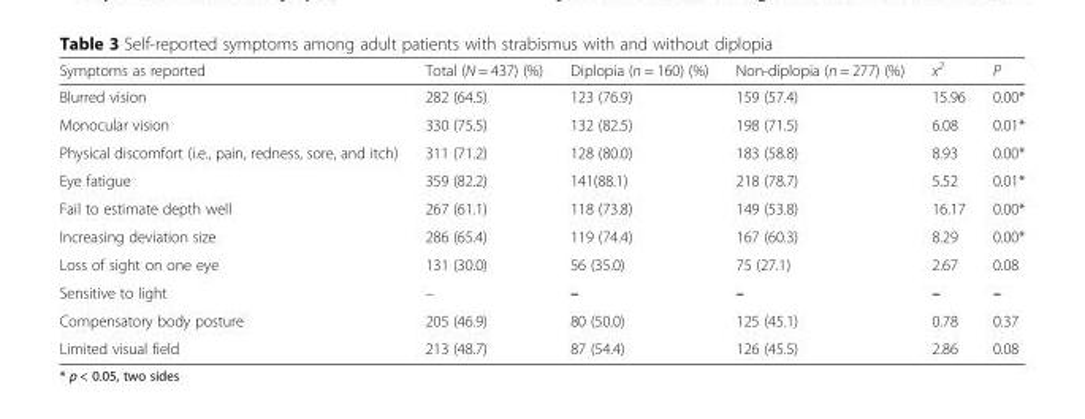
<table><thead><tr><td>Symptoms as reported</td><td>Total (N = 437) (%)</td><td>Diplopia (n = 160) (%)</td><td>Non-diplopia (n = 277) (%)</td><td>x<sup>2</sup></td><td>P</td></tr></thead><tbody><tr><td>Blurred vision</td><td>282 (64.5)</td><td>123 (76.9)</td><td>159 (57.4)</td><td>15.96</td><td>0.00*</td></tr><tr><td>Monocular vision</td><td>330 (75.5)</td><td>132 (82.5)</td><td>198 (71.5)</td><td>6.08</td><td>0.01*</td></tr><tr><td>Physical discomfort (i.e., pain, redness, sore, and itch)</td><td>311 (71.2)</td><td>128 (80.0)</td><td>183 (58.8)</td><td>8.93</td><td>0.00*</td></tr><tr><td>Eye fatigue</td><td>359 (82.2)</td><td>141(88.1)</td><td>218 (78.7)</td><td>5.52</td><td>0.01*</td></tr><tr><td>Fail to estimate depth well</td><td>267 (61.1)</td><td>118 (73.8)</td><td>149 (53.8)</td><td>16.17</td><td>0.00*</td></tr><tr><td>Increasing deviation size</td><td>286 (65.4)</td><td>119 (74.4)</td><td>167 (60.3)</td><td>8.29</td><td>0.00*</td></tr><tr><td>Loss of sight on one eye</td><td>131 (30.0)</td><td>56 (35.0)</td><td>75 (27.1)</td><td>2.67</td><td>0.08</td></tr><tr><td>Sensitive to light</td><td>–</td><td>–</td><td>–</td><td>–</td><td>–</td></tr><tr><td>Compensatory body posture</td><td>205 (46.9)</td><td>80 (50.0)</td><td>125 (45.1)</td><td>0.78</td><td>0.37</td></tr><tr><td>Limited visual field</td><td>213 (48.7)</td><td>87 (54.4)</td><td>126 (45.5)</td><td>2.86</td><td>0.08</td></tr></tbody></table>